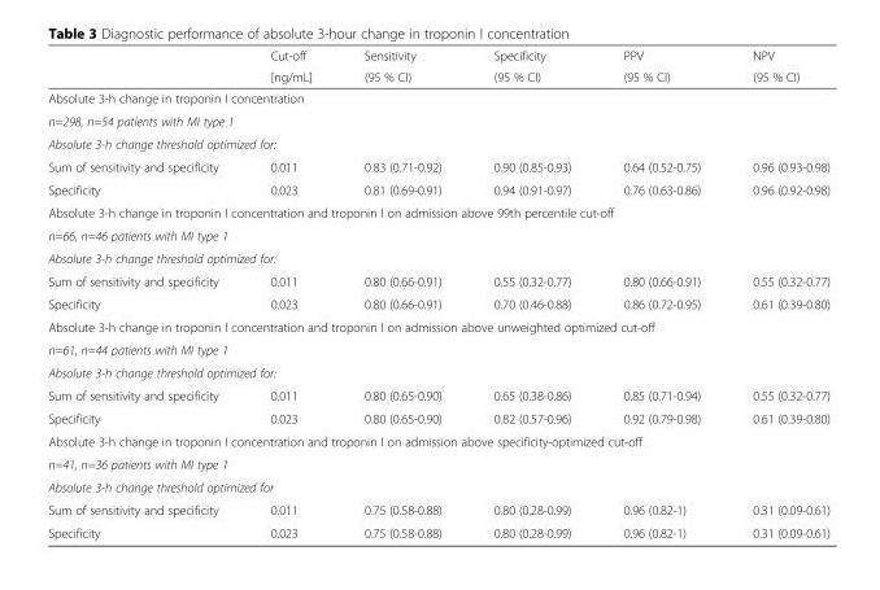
<table><thead><tr><td rowspan="2"></td><td rowspan="2">Cut-off [ng/mL]</td><td rowspan="2">Sensitivity (95 % CI)</td><td rowspan="2">Specificity (95 % CI)</td><td rowspan="2">PPV (95 % CI)</td><td rowspan="2">NPV (95 % CI)</td></tr><tr></tr></thead><tbody><tr><td colspan="6">Absolute 3-h change in troponin I concentration</td></tr><tr><td colspan="6">n=298, n=54 patients with MI type 1</td></tr><tr><td colspan="6">Absolute 3-h change threshold optimized for:</td></tr><tr><td>Sum of sensitivity and specificity</td><td>0.011</td><td>0.83 (0.71-0.92)</td><td>0.90 (0.85-0.93)</td><td>0.64 (0.52-0.75)</td><td>0.96 (0.93-0.98)</td></tr><tr><td>Specificity</td><td>0.023</td><td>0.81 (0.69-0.91)</td><td>0.94 (0.91-0.97)</td><td>0.76 (0.63-0.86)</td><td>0.96 (0.92-0.98)</td></tr><tr><td colspan="6">Absolute 3-h change in troponin I concentration and troponin I on admission above 99th percentile cut-off</td></tr><tr><td colspan="6">n=66, n=46 patients with MI type 1</td></tr><tr><td colspan="6">Absolute 3-h change threshold optimized for:</td></tr><tr><td>Sum of sensitivity and specificity</td><td>0.011</td><td>0.80 (0.66-0.91)</td><td>0.55 (0.32-0.77)</td><td>0.80 (0.66-0.91)</td><td>0.55 (0.32-0.77)</td></tr><tr><td>Specificity</td><td>0.023</td><td>0.80 (0.66-0.91)</td><td>0.70 (0.46-0.88)</td><td>0.86 (0.72-0.95)</td><td>0.61 (0.39-0.80)</td></tr><tr><td colspan="6">Absolute 3-h change in troponin I concentration and troponin I on admission above unweighted optimized cut-off</td></tr><tr><td colspan="6">n=61, n=44 patients with MI type 1</td></tr><tr><td colspan="6">Absolute 3-h change threshold optimized for:</td></tr><tr><td>Sum of sensitivity and specificity</td><td>0.011</td><td>0.80 (0.65-0.90)</td><td>0.65 (0.38-0.86)</td><td>0.85 (0.71-0.94)</td><td>0.55 (0.32-0.77)</td></tr><tr><td>Specificity</td><td>0.023</td><td>0.80 (0.65-0.90)</td><td>0.82 (0.57-0.96)</td><td>0.92 (0.79-0.98)</td><td>0.61 (0.39-0.80)</td></tr><tr><td colspan="6">Absolute 3-h change in troponin I concentration and troponin I on admission above specificity-optimized cut-off</td></tr><tr><td colspan="6">n=41, n=36 patients with MI type 1</td></tr><tr><td colspan="6">Absolute 3-h change threshold optimized for</td></tr><tr><td>Sum of sensitivity and specificity</td><td>0.011</td><td>0.75 (0.58-0.88)</td><td>0.80 (0.28-0.99)</td><td>0.96 (0.82-1)</td><td>0.31 (0.09-0.61)</td></tr><tr><td>Specificity</td><td>0.023</td><td>0.75 (0.58-0.88)</td><td>0.80 (0.28-0.99)</td><td>0.96 (0.82-1)</td><td>0.31 (0.09-0.61)</td></tr></tbody></table>